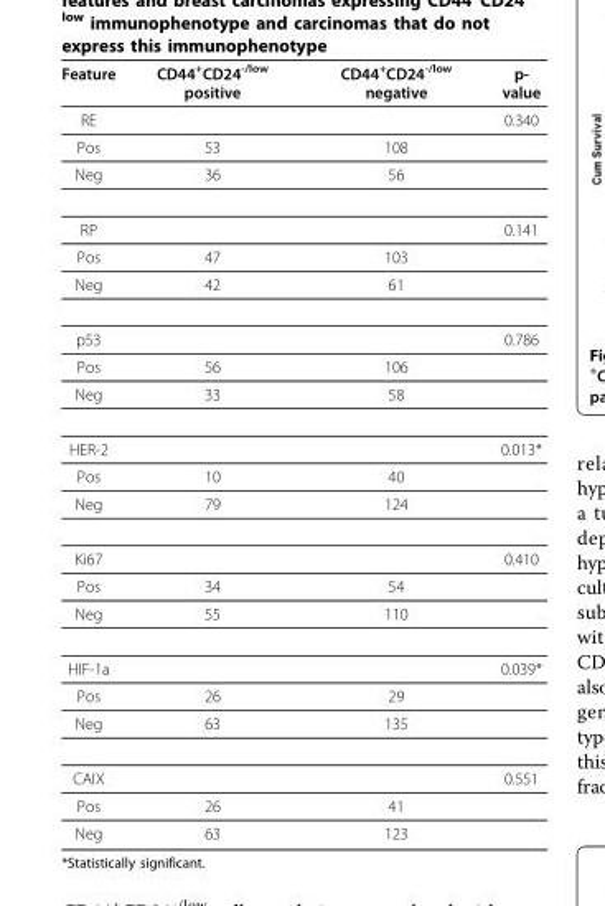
<table><thead><tr><td>Feature</td><td>CD44+CD24-/low positive</td><td>CD44+CD24-/low negative</td><td>p- value</td></tr></thead><tbody><tr><td>RE</td><td></td><td></td><td>0.340</td></tr><tr><td>Pos</td><td>53</td><td>108</td><td></td></tr><tr><td>Neg</td><td>36</td><td>56</td><td></td></tr><tr><td>RP</td><td></td><td></td><td>0.141</td></tr><tr><td>Pos</td><td>47</td><td>103</td><td></td></tr><tr><td>Neg</td><td>42</td><td>61</td><td></td></tr><tr><td>p53</td><td></td><td></td><td>0.786</td></tr><tr><td>Pos</td><td>56</td><td>106</td><td></td></tr><tr><td>Neg</td><td>33</td><td>58</td><td></td></tr><tr><td>HER-2</td><td></td><td></td><td>0.013*</td></tr><tr><td>Pos</td><td>10</td><td>40</td><td></td></tr><tr><td>Neg</td><td>79</td><td>124</td><td></td></tr><tr><td>Ki67</td><td></td><td></td><td>0.410</td></tr><tr><td>Pos</td><td>34</td><td>54</td><td></td></tr><tr><td>Neg</td><td>55</td><td>110</td><td></td></tr><tr><td>HIF-1a</td><td></td><td></td><td>0.039*</td></tr><tr><td>Pos</td><td>26</td><td>29</td><td></td></tr><tr><td>Neg</td><td>63</td><td>135</td><td></td></tr><tr><td>CAIX</td><td></td><td></td><td>0.551</td></tr><tr><td>Pos</td><td>26</td><td>41</td><td></td></tr><tr><td>Neg</td><td>63</td><td>123</td><td></td></tr></tbody></table>